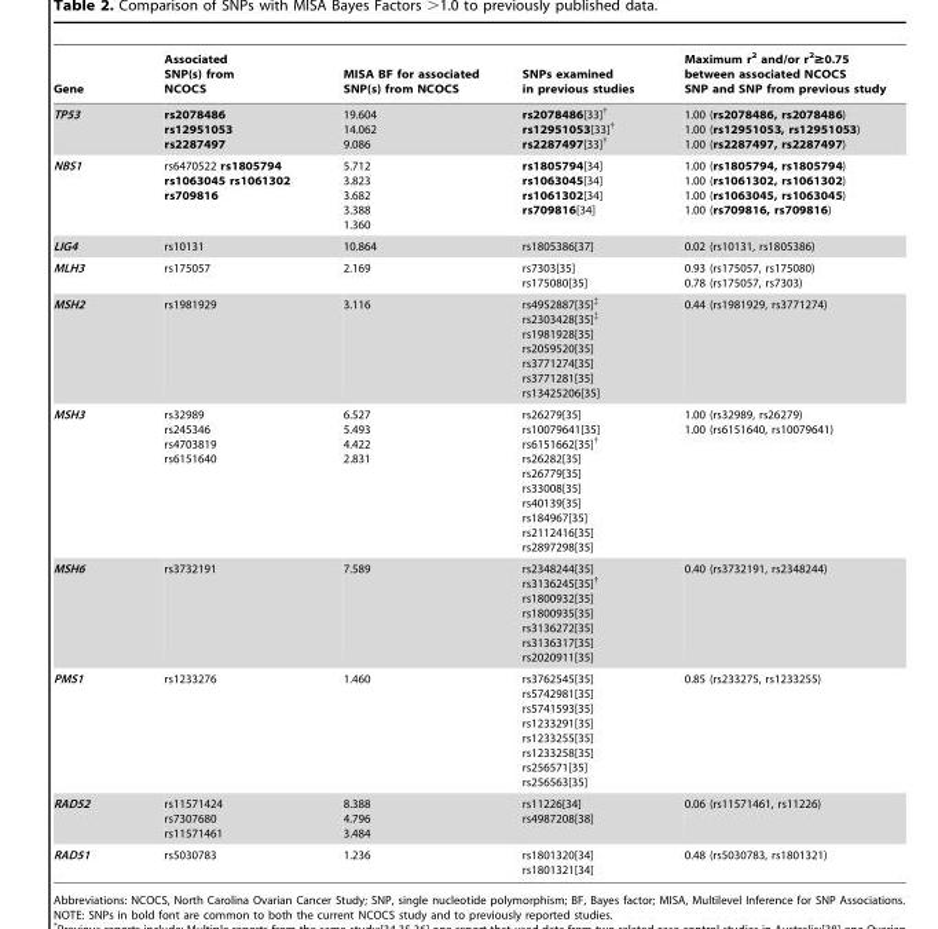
<table><thead><tr><td>Gene</td><td>Associated SNP(s) from NCOCS</td><td>MISA BF for associated SNP(s) from NCOCS</td><td>SNPs examined in previous studies</td><td>Maximum r<sup>2</sup> and/or r<sup>2</sup>≥0.75 between associated NCOCS SNP and SNP from previous study</td></tr></thead><tbody><tr><td>TP53</td><td>rs2078486 rs12951053 rs2287497</td><td>19.604 14.062 9.086</td><td>rs2078486[33]† rs12951053[33]† rs2287497[33]†</td><td>1.00 (rs2078486, rs2078486) 1.00 (rs12951053, rs12951053) 1.00 (rs2287497, rs2287497)</td></tr><tr><td>NBS1</td><td>rs6470522 rs1805794 rs1063045 rs1061302 rs709816</td><td>5.712 3.823 3.682 3.388 1.360</td><td>rs1805794[34] rs1063045[34] rs1061302[34] rs709816[34]</td><td>1.00 (rs1805794, rs1805794) 1.00 (rs1061302, rs1061302) 1.00 (rs1063045, rs1063045) 1.00 (rs709816, rs709816)</td></tr><tr><td>LIG4</td><td>rs10131</td><td>10.864</td><td>rs1805386[37]</td><td>0.02 (rs10131, rs1805386)</td></tr><tr><td>MLH3</td><td>rs175057</td><td>2.169</td><td>rs7303[35] rs175080[35]</td><td>0.93 (rs175057, rs175080) 0.78 (rs175057, rs7303)</td></tr><tr><td>MSH2</td><td>rs1981929</td><td>3.116</td><td>rs4952887[35]‡ rs2303428[35]‡ rs1981928[35] rs2059520[35] rs3771274[35] rs3771281[35] rs13425206[35]</td><td>0.44 (rs1981929, rs3771274)</td></tr><tr><td>MSH3</td><td>rs32989 rs245346 rs4703819 rs6151640</td><td>6.527 5.493 4.422 2.831</td><td>rs26279[35] rs10079641[35] rs6151662[35]† rs26282[35] rs26779[35] rs33008[35] rs40139[35] rs184967[35] rs2112416[35] rs2897298[35]</td><td>1.00 (rs32989, rs26279) 1.00 (rs6151640, rs10079641)</td></tr><tr><td>MSH6</td><td>rs3732191</td><td>7.589</td><td>rs2348244[35] rs3136245[35]† rs1800932[35] rs1800935[35] rs3136272[35] rs3136317[35] rs2020911[35]</td><td>0.40 (rs3732191, rs2348244)</td></tr><tr><td>PMS1</td><td>rs1233276</td><td>1.460</td><td>rs3762545[35] rs5742981[35] rs5741593[35] rs1233291[35] rs1233255[35] rs1233258[35] rs256571[35] rs256563[35]</td><td>0.85 (rs233275, rs1233255)</td></tr><tr><td>RAD52</td><td>rs11571424 rs7307680 rs11571461</td><td>8.388 4.796 3.484</td><td>rs11226[34] rs4987208[38]</td><td>0.06 (rs11571461, rs11226)</td></tr><tr><td>RAD51</td><td>rs5030783</td><td>1.236</td><td>rs1801320[34] rs1801321[34]</td><td>0.48 (rs5030783, rs1801321)</td></tr></tbody></table>